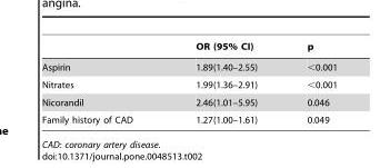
<table><thead><tr><td></td><td>OR (95% CI)</td><td>p</td></tr></thead><tbody><tr><td>Aspirin</td><td>1.89(1.40–2.55)</td><td>&lt;0.001</td></tr><tr><td>Nitrates</td><td>1.99(1.36–2.91)</td><td>&lt;0.001</td></tr><tr><td>Nicorandil</td><td>2.46(1.01–5.95)</td><td>0.046</td></tr><tr><td>Family history of CAD</td><td>1.27(1.00–1.61)</td><td>0.049</td></tr></tbody></table>